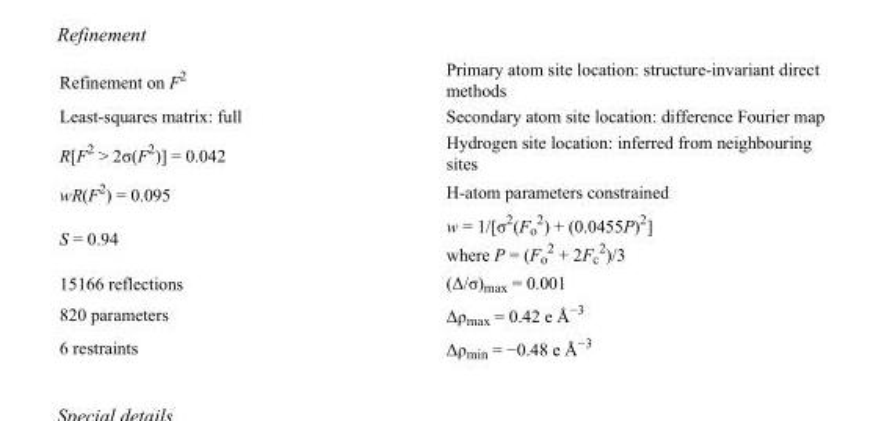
<table><tbody><tr><td>Refinement on F<sup>2</sup></td><td>Primary atom site location: structure-invariant direct methods</td></tr><tr><td>Least-squares matrix: full</td><td>Secondary atom site location: difference Fourier map</td></tr><tr><td>R[F<sup>2</sup> &gt; 2σ(F<sup>2</sup>)] = 0.042</td><td>Hydrogen site location: inferred from neighbouring sites</td></tr><tr><td>wR(F<sup>2</sup>) = 0.095</td><td>H-atom parameters constrained</td></tr><tr><td>S = 0.94</td><td>w = 1/[σ<sup>2</sup>(F<sub>o</sub> <sup>2</sup>) + (0.0455P)<sup>2</sup>] where P = (F<sub>o</sub> <sup>2</sup> + 2F<sub>c</sub> <sup>2</sup>)/3</td></tr><tr><td>15166 reflections</td><td>(Δ/σ)<sub>max</sub> = 0.001</td></tr><tr><td>820 parameters</td><td>Δρ<sub>max</sub> = 0.42 e Å<sup>−3</sup></td></tr><tr><td>6 restraints</td><td>Δρ<sub>min</sub> = −0.48 e Å<sup>−3</sup></td></tr></tbody></table>